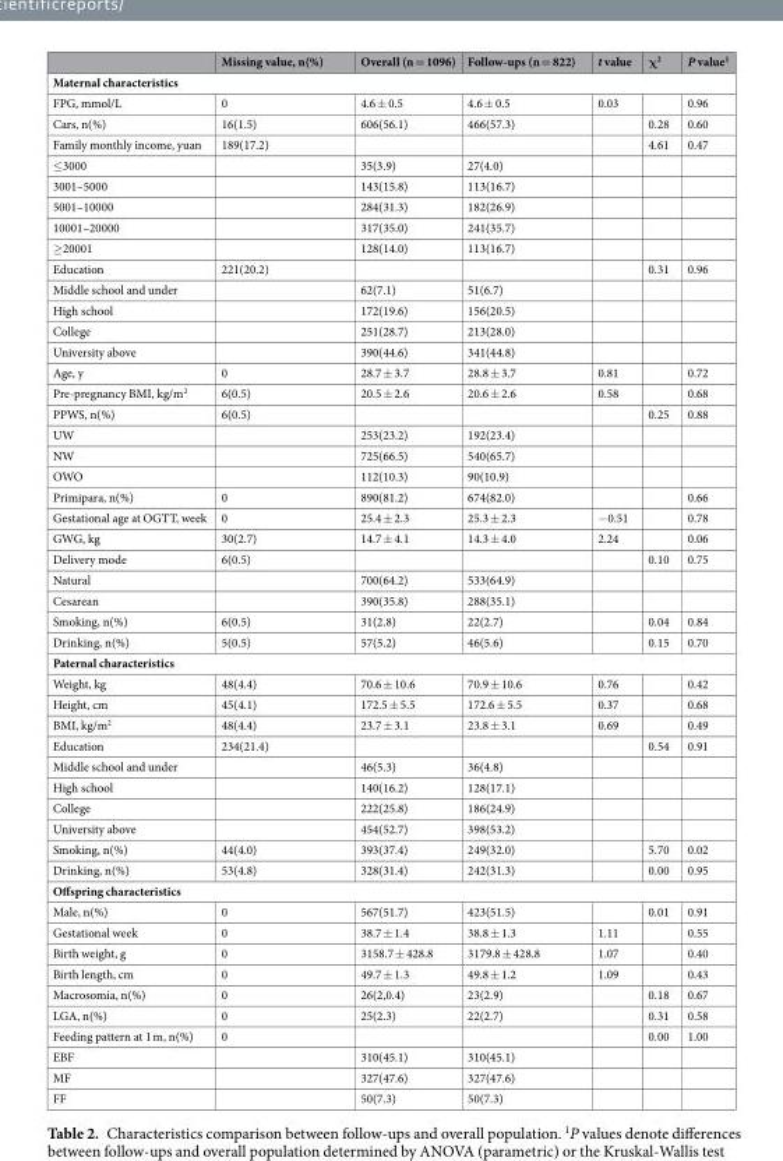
<table><thead><tr><td></td><td>Missing value, n(%)</td><td>Overall (n = 1096)</td><td>Follow-ups (n = 822)</td><td>t value</td><td>χ<sup>2</sup></td><td>P value<sup>1</sup></td></tr></thead><tbody><tr><td colspan="7">Maternal characteristics</td></tr><tr><td>FPG, mmol/L</td><td>0</td><td>4.6 ± 0.5</td><td>4.6 ± 0.5</td><td>0.03</td><td></td><td>0.96</td></tr><tr><td>Cars, n(%)</td><td>16(1.5)</td><td>606(56.1)</td><td>466(57.3)</td><td></td><td>0.28</td><td>0.60</td></tr><tr><td>Family monthly income, yuan</td><td>189(17.2)</td><td></td><td></td><td></td><td>4.61</td><td>0.47</td></tr><tr><td>≤3000</td><td></td><td>35(3.9)</td><td>27(4.0)</td><td></td><td></td><td></td></tr><tr><td>3001–5000</td><td></td><td>143(15.8)</td><td>113(16.7)</td><td></td><td></td><td></td></tr><tr><td>5001–10000</td><td></td><td>284(31.3)</td><td>182(26.9)</td><td></td><td></td><td></td></tr><tr><td>10001–20000</td><td></td><td>317(35.0)</td><td>241(35.7)</td><td></td><td></td><td></td></tr><tr><td>≥20001</td><td></td><td>128(14.0)</td><td>113(16.7)</td><td></td><td></td><td></td></tr><tr><td>Education</td><td>221(20.2)</td><td></td><td></td><td></td><td>0.31</td><td>0.96</td></tr><tr><td>Middle school and under</td><td></td><td>62(7.1)</td><td>51(6.7)</td><td></td><td></td><td></td></tr><tr><td>High school</td><td></td><td>172(19.6)</td><td>156(20.5)</td><td></td><td></td><td></td></tr><tr><td>College</td><td></td><td>251(28.7)</td><td>213(28.0)</td><td></td><td></td><td></td></tr><tr><td>University above</td><td></td><td>390(44.6)</td><td>341(44.8)</td><td></td><td></td><td></td></tr><tr><td>Age, y</td><td>0</td><td>28.7 ± 3.7</td><td>28.8 ± 3.7</td><td>0.81</td><td></td><td>0.72</td></tr><tr><td>Pre-pregnancy BMI, kg/m<sup>2</sup></td><td>6(0.5)</td><td>20.5 ± 2.6</td><td>20.6 ± 2.6</td><td>0.58</td><td></td><td>0.68</td></tr><tr><td>PPWS, n(%)</td><td>6(0.5)</td><td></td><td></td><td></td><td>0.25</td><td>0.88</td></tr><tr><td>UW</td><td></td><td>253(23.2)</td><td>192(23.4)</td><td></td><td></td><td></td></tr><tr><td>NW</td><td></td><td>725(66.5)</td><td>540(65.7)</td><td></td><td></td><td></td></tr><tr><td>OWO</td><td></td><td>112(10.3)</td><td>90(10.9)</td><td></td><td></td><td></td></tr><tr><td>Primipara, n(%)</td><td>0</td><td>890(81.2)</td><td>674(82.0)</td><td></td><td></td><td>0.66</td></tr><tr><td>Gestational age at OGTT, week</td><td>0</td><td>25.4 ± 2.3</td><td>25.3 ± 2.3</td><td>−0.51</td><td></td><td>0.78</td></tr><tr><td>GWG, kg</td><td>30(2.7)</td><td>14.7 ± 4.1</td><td>14.3 ± 4.0</td><td>2.24</td><td></td><td>0.06</td></tr><tr><td>Delivery mode</td><td>6(0.5)</td><td></td><td></td><td></td><td>0.10</td><td>0.75</td></tr><tr><td>Natural</td><td></td><td>700(64.2)</td><td>533(64.9)</td><td></td><td></td><td></td></tr><tr><td>Cesarean</td><td></td><td>390(35.8)</td><td>288(35.1)</td><td></td><td></td><td></td></tr><tr><td>Smoking, n(%)</td><td>6(0.5)</td><td>31(2.8)</td><td>22(2.7)</td><td></td><td>0.04</td><td>0.84</td></tr><tr><td>Drinking, n(%)</td><td>5(0.5)</td><td>57(5.2)</td><td>46(5.6)</td><td></td><td>0.15</td><td>0.70</td></tr><tr><td colspan="7">Paternal characteristics</td></tr><tr><td>Weight, kg</td><td>48(4.4)</td><td>70.6 ± 10.6</td><td>70.9 ± 10.6</td><td>0.76</td><td></td><td>0.42</td></tr><tr><td>Height, cm</td><td>45(4.1)</td><td>172.5 ± 5.5</td><td>172.6 ± 5.5</td><td>0.37</td><td></td><td>0.68</td></tr><tr><td>BMI, kg/m<sup>2</sup></td><td>48(4.4)</td><td>23.7 ± 3.1</td><td>23.8 ± 3.1</td><td>0.69</td><td></td><td>0.49</td></tr><tr><td>Education</td><td>234(21.4)</td><td></td><td></td><td></td><td>0.54</td><td>0.91</td></tr><tr><td>Middle school and under</td><td></td><td>46(5.3)</td><td>36(4.8)</td><td></td><td></td><td></td></tr><tr><td>High school</td><td></td><td>140(16.2)</td><td>128(17.1)</td><td></td><td></td><td></td></tr><tr><td>College</td><td></td><td>222(25.8)</td><td>186(24.9)</td><td></td><td></td><td></td></tr><tr><td>University above</td><td></td><td>454(52.7)</td><td>398(53.2)</td><td></td><td></td><td></td></tr><tr><td>Smoking, n(%)</td><td>44(4.0)</td><td>393(37.4)</td><td>249(32.0)</td><td></td><td>5.70</td><td>0.02</td></tr><tr><td>Drinking, n(%)</td><td>53(4.8)</td><td>328(31.4)</td><td>242(31.3)</td><td></td><td>0.00</td><td>0.95</td></tr><tr><td colspan="7">Offspring characteristics</td></tr><tr><td>Male, n(%)</td><td>0</td><td>567(51.7)</td><td>423(51.5)</td><td></td><td>0.01</td><td>0.91</td></tr><tr><td>Gestational week</td><td>0</td><td>38.7 ± 1.4</td><td>38.8 ± 1.3</td><td>1.11</td><td></td><td>0.55</td></tr><tr><td>Birth weight, g</td><td>0</td><td>3158.7 ± 428.8</td><td>3179.8 ± 428.8</td><td>1.07</td><td></td><td>0.40</td></tr><tr><td>Birth length, cm</td><td>0</td><td>49.7 ± 1.3</td><td>49.8 ± 1.2</td><td>1.09</td><td></td><td>0.43</td></tr><tr><td>Macrosomia, n(%)</td><td>0</td><td>26(2,0.4)</td><td>23(2.9)</td><td></td><td>0.18</td><td>0.67</td></tr><tr><td>LGA, n(%)</td><td>0</td><td>25(2.3)</td><td>22(2.7)</td><td></td><td>0.31</td><td>0.58</td></tr><tr><td>Feeding pattern at 1 m, n(%)</td><td>0</td><td></td><td></td><td></td><td>0.00</td><td>1.00</td></tr><tr><td>EBF</td><td></td><td>310(45.1)</td><td>310(45.1)</td><td></td><td></td><td></td></tr><tr><td>MF</td><td></td><td>327(47.6)</td><td>327(47.6)</td><td></td><td></td><td></td></tr><tr><td>FF</td><td></td><td>50(7.3)</td><td>50(7.3)</td><td></td><td></td><td></td></tr></tbody></table>